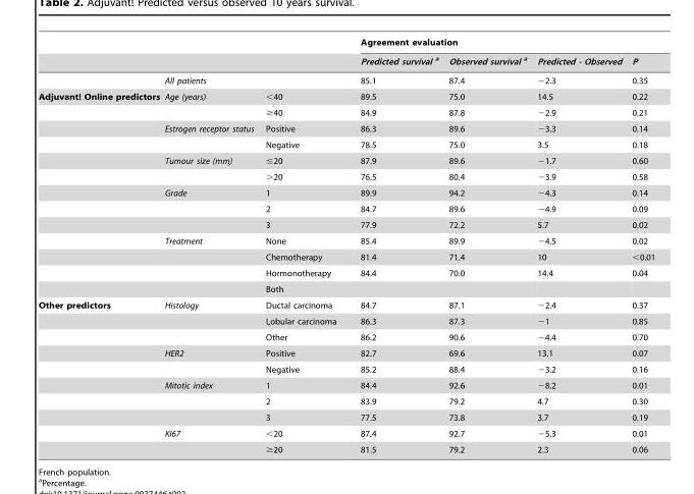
<table><thead><tr><td rowspan="2"></td><td rowspan="2"></td><td rowspan="2"></td><td colspan="4">Agreement evaluation</td></tr><tr><td>Predicted survival a</td><td>Observed survival a</td><td>Predicted - Observed</td><td>P</td></tr></thead><tbody><tr><td></td><td colspan="2">All patients</td><td>85.1</td><td>87.4</td><td>−2.3</td><td>0.35</td></tr><tr><td rowspan="13">Adjuvant! Online predictors</td><td>Age (years)</td><td>&lt;40</td><td>89.5</td><td>75.0</td><td>14.5</td><td>0.22</td></tr><tr><td></td><td>≥40</td><td>84.9</td><td>87.8</td><td>−2.9</td><td>0.21</td></tr><tr><td>Estrogen receptor status</td><td>Positive</td><td>86.3</td><td>89.6</td><td>−3.3</td><td>0.14</td></tr><tr><td></td><td>Negative</td><td>78.5</td><td>75.0</td><td>3.5</td><td>0.18</td></tr><tr><td>Tumour size (mm)</td><td>≤20</td><td>87.9</td><td>89.6</td><td>−1.7</td><td>0.60</td></tr><tr><td></td><td>&gt;20</td><td>76.5</td><td>80.4</td><td>−3.9</td><td>0.58</td></tr><tr><td>Grade</td><td>1</td><td>89.9</td><td>94.2</td><td>−4.3</td><td>0.14</td></tr><tr><td></td><td>2</td><td>84.7</td><td>89.6</td><td>−4.9</td><td>0.09</td></tr><tr><td></td><td>3</td><td>77.9</td><td>72.2</td><td>5.7</td><td>0.02</td></tr><tr><td>Treatment</td><td>None</td><td>85.4</td><td>89.9</td><td>−4.5</td><td>0.02</td></tr><tr><td></td><td>Chemotherapy</td><td>81.4</td><td>71.4</td><td>10</td><td>&lt;0.01</td></tr><tr><td></td><td>Hormonotherapy</td><td>84.4</td><td>70.0</td><td>14.4</td><td>0.04</td></tr><tr><td></td><td>Both</td><td></td><td></td><td></td><td></td></tr><tr><td rowspan="10">Other predictors</td><td>Histology</td><td>Ductal carcinoma</td><td>84.7</td><td>87.1</td><td>−2.4</td><td>0.37</td></tr><tr><td></td><td>Lobular carcinoma</td><td>86.3</td><td>87.3</td><td>−1</td><td>0.85</td></tr><tr><td></td><td>Other</td><td>86.2</td><td>90.6</td><td>−4.4</td><td>0.70</td></tr><tr><td>HER2</td><td>Positive</td><td>82.7</td><td>69.6</td><td>13.1</td><td>0.07</td></tr><tr><td></td><td>Negative</td><td>85.2</td><td>88.4</td><td>−3.2</td><td>0.16</td></tr><tr><td>Mitotic index</td><td>1</td><td>84.4</td><td>92.6</td><td>−8.2</td><td>0.01</td></tr><tr><td></td><td>2</td><td>83.9</td><td>79.2</td><td>4.7</td><td>0.30</td></tr><tr><td></td><td>3</td><td>77.5</td><td>73.8</td><td>3.7</td><td>0.19</td></tr><tr><td>KI67</td><td>&lt;20</td><td>87.4</td><td>92.7</td><td>−5.3</td><td>0.01</td></tr><tr><td></td><td>≥20</td><td>81.5</td><td>79.2</td><td>2.3</td><td>0.06</td></tr></tbody></table>